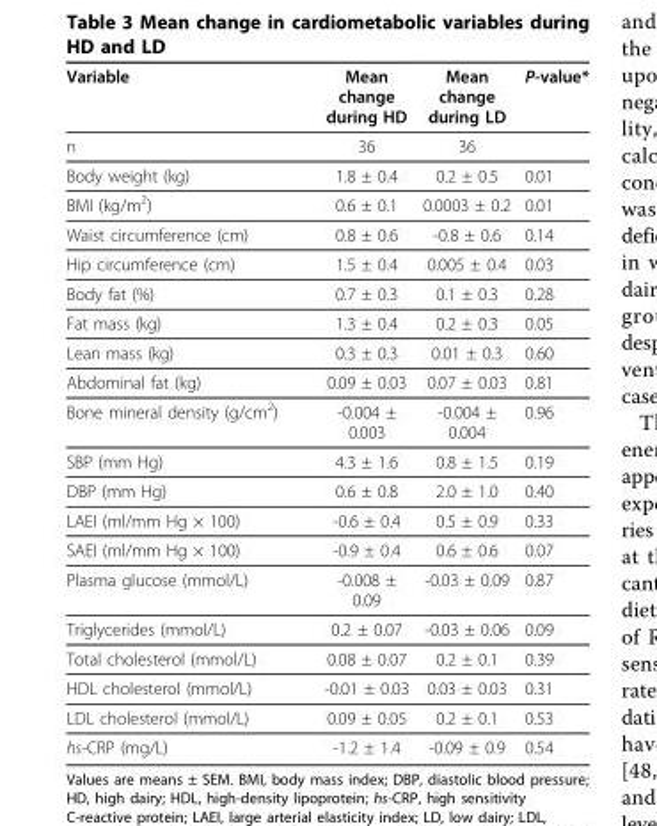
<table><thead><tr><td>Variable</td><td>Mean change during HD</td><td>Mean change during LD</td><td>P-value*</td></tr></thead><tbody><tr><td>n</td><td>36</td><td>36</td><td></td></tr><tr><td>Body weight (kg)</td><td>1.8 ± 0.4</td><td>0.2 ± 0.5</td><td>0.01</td></tr><tr><td>BMI (kg/m<sup>2</sup>)</td><td>0.6 ± 0.1</td><td>0.0003 ± 0.2</td><td>0.01</td></tr><tr><td>Waist circumference (cm)</td><td>0.8 ± 0.6</td><td>-0.8 ± 0.6</td><td>0.14</td></tr><tr><td>Hip circumference (cm)</td><td>1.5 ± 0.4</td><td>0.005 ± 0.4</td><td>0.03</td></tr><tr><td>Body fat (%)</td><td>0.7 ± 0.3</td><td>0.1 ± 0.3</td><td>0.28</td></tr><tr><td>Fat mass (kg)</td><td>1.3 ± 0.4</td><td>0.2 ± 0.3</td><td>0.05</td></tr><tr><td>Lean mass (kg)</td><td>0.3 ± 0.3</td><td>0.01 ± 0.3</td><td>0.60</td></tr><tr><td>Abdominal fat (kg)</td><td>0.09 ± 0.03</td><td>0.07 ± 0.03</td><td>0.81</td></tr><tr><td>Bone mineral density (g/cm<sup>2</sup>)</td><td>-0.004 ± 0.003</td><td>-0.004 ± 0.004</td><td>0.96</td></tr><tr><td>SBP (mm Hg)</td><td>4.3 ± 1.6</td><td>0.8 ± 1.5</td><td>0.19</td></tr><tr><td>DBP (mm Hg)</td><td>0.6 ± 0.8</td><td>2.0 ± 1.0</td><td>0.40</td></tr><tr><td>LAEI (ml/mm Hg × 100)</td><td>-0.6 ± 0.4</td><td>0.5 ± 0.9</td><td>0.33</td></tr><tr><td>SAEI (ml/mm Hg × 100)</td><td>-0.9 ± 0.4</td><td>0.6 ± 0.6</td><td>0.07</td></tr><tr><td>Plasma glucose (mmol/L)</td><td>-0.008 ± 0.09</td><td>-0.03 ± 0.09</td><td>0.87</td></tr><tr><td>Triglycerides (mmol/L)</td><td>0.2 ± 0.07</td><td>-0.03 ± 0.06</td><td>0.09</td></tr><tr><td>Total cholesterol (mmol/L)</td><td>0.08 ± 0.07</td><td>0.2 ± 0.1</td><td>0.39</td></tr><tr><td>HDL cholesterol (mmol/L)</td><td>-0.01 ± 0.03</td><td>0.03 ± 0.03</td><td>0.31</td></tr><tr><td>LDL cholesterol (mmol/L)</td><td>0.09 ± 0.05</td><td>0.2 ± 0.1</td><td>0.53</td></tr><tr><td>hs-CRP (mg/L)</td><td>-1.2 ± 1.4</td><td>-0.09 ± 0.9</td><td>0.54</td></tr></tbody></table>